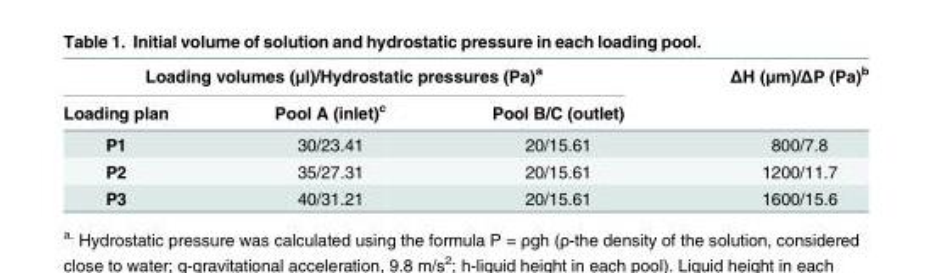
<table><thead><tr><td colspan="3">Loading volumes (μl)/Hydrostatic pressures (Pa)<sup>a</sup></td><td rowspan="2">ΔH (μm)/ΔP (Pa)<sup>b</sup></td></tr><tr><td>Loading plan</td><td>Pool A (inlet)<sup>c</sup></td><td>Pool B/C (outlet)</td></tr></thead><tbody><tr><td>P1</td><td>30/23.41</td><td>20/15.61</td><td>800/7.8</td></tr><tr><td>P2</td><td>35/27.31</td><td>20/15.61</td><td>1200/11.7</td></tr><tr><td>P3</td><td>40/31.21</td><td>20/15.61</td><td>1600/15.6</td></tr></tbody></table>